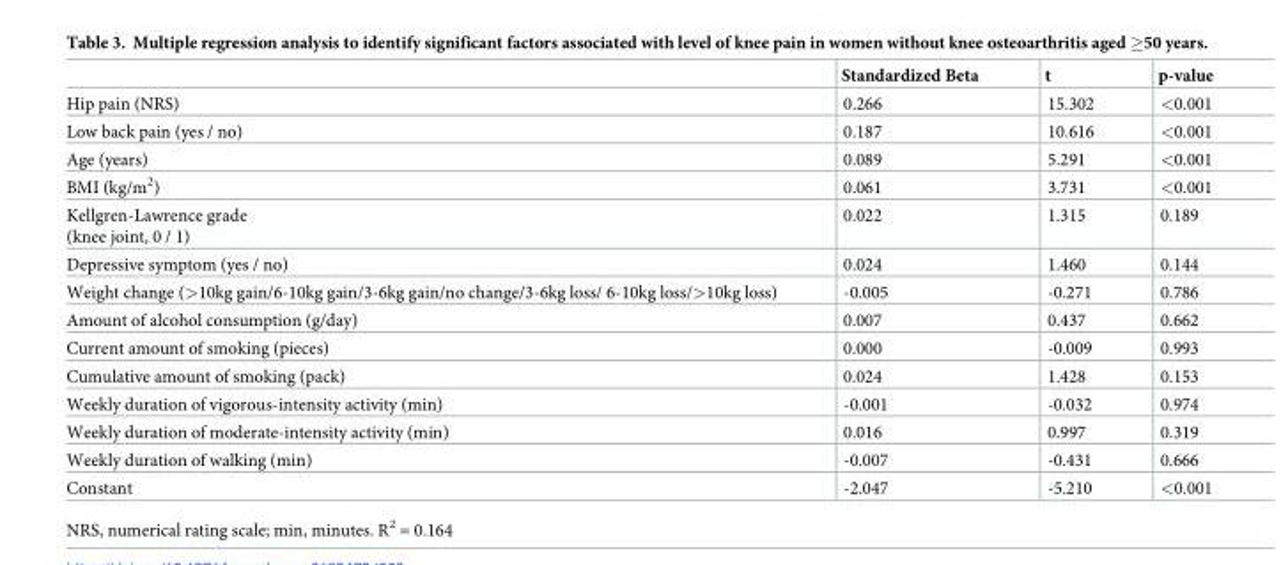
<table><thead><tr><td></td><td>Standardized Beta</td><td>t</td><td>p-value</td></tr></thead><tbody><tr><td>Hip pain (NRS)</td><td>0.266</td><td>15.302</td><td>&lt;0.001</td></tr><tr><td>Low back pain (yes / no)</td><td>0.187</td><td>10.616</td><td>&lt;0.001</td></tr><tr><td>Age (years)</td><td>0.089</td><td>5.291</td><td>&lt;0.001</td></tr><tr><td>BMI (kg/m<sup>2</sup>)</td><td>0.061</td><td>3.731</td><td>&lt;0.001</td></tr><tr><td>Kellgren-Lawrence grade (knee joint, 0 / 1)</td><td>0.022</td><td>1.315</td><td>0.189</td></tr><tr><td>Depressive symptom (yes / no)</td><td>0.024</td><td>1.460</td><td>0.144</td></tr><tr><td>Weight change (&gt;10kg gain/6-10kg gain/3-6kg gain/no change/3-6kg loss/ 6-10kg loss/&gt;10kg loss)</td><td>-0.005</td><td>-0.271</td><td>0.786</td></tr><tr><td>Amount of alcohol consumption (g/day)</td><td>0.007</td><td>0.437</td><td>0.662</td></tr><tr><td>Current amount of smoking (pieces)</td><td>0.000</td><td>-0.009</td><td>0.993</td></tr><tr><td>Cumulative amount of smoking (pack)</td><td>0.024</td><td>1.428</td><td>0.153</td></tr><tr><td>Weekly duration of vigorous-intensity activity (min)</td><td>-0.001</td><td>-0.032</td><td>0.974</td></tr><tr><td>Weekly duration of moderate-intensity activity (min)</td><td>0.016</td><td>0.997</td><td>0.319</td></tr><tr><td>Weekly duration of walking (min)</td><td>-0.007</td><td>-0.431</td><td>0.666</td></tr><tr><td>Constant</td><td>-2.047</td><td>-5.210</td><td>&lt;0.001</td></tr></tbody></table>